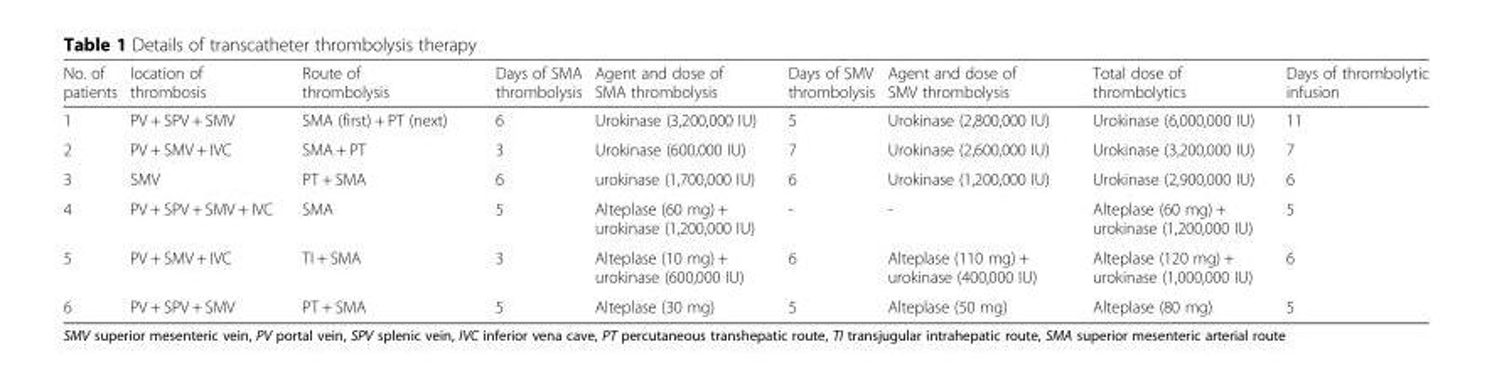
<table><thead><tr><td>No. of patients</td><td>location of thrombosis</td><td>Route of thrombolysis</td><td>Days of SMA thrombolysis</td><td>Agent and dose of SMA thrombolysis</td><td>Days of SMV thrombolysis</td><td>Agent and dose of SMV thrombolysis</td><td>Total dose of thrombolytics</td><td>Days of thrombolytic infusion</td></tr></thead><tbody><tr><td>1</td><td>PV + SPV + SMV</td><td>SMA (first) + PT (next)</td><td>6</td><td>Urokinase (3,200,000 IU)</td><td>5</td><td>Urokinase (2,800,000 IU)</td><td>Urokinase (6,000,000 IU)</td><td>11</td></tr><tr><td>2</td><td>PV + SMV + IVC</td><td>SMA + PT</td><td>3</td><td>Urokinase (600,000 IU)</td><td>7</td><td>Urokinase (2,600,000 IU)</td><td>Urokinase (3,200,000 IU)</td><td>7</td></tr><tr><td>3</td><td>SMV</td><td>PT + SMA</td><td>6</td><td>urokinase (1,700,000 IU)</td><td>6</td><td>Urokinase (1,200,000 IU)</td><td>Urokinase (2,900,000 IU)</td><td>6</td></tr><tr><td>4</td><td>PV + SPV + SMV + IVC</td><td>SMA</td><td>5</td><td>Alteplase (60 mg) + urokinase (1,200,000 IU)</td><td>-</td><td>-</td><td>Alteplase (60 mg) + urokinase (1,200,000 IU)</td><td>5</td></tr><tr><td>5</td><td>PV + SMV + IVC</td><td>TI + SMA</td><td>3</td><td>Alteplase (10 mg) + urokinase (600,000 IU)</td><td>6</td><td>Alteplase (110 mg) + urokinase (400,000 IU)</td><td>Alteplase (120 mg) + urokinase (1,000,000 IU)</td><td>6</td></tr><tr><td>6</td><td>PV + SPV + SMV</td><td>PT + SMA</td><td>5</td><td>Alteplase (30 mg)</td><td>5</td><td>Alteplase (50 mg)</td><td>Alteplase (80 mg)</td><td>5</td></tr></tbody></table>